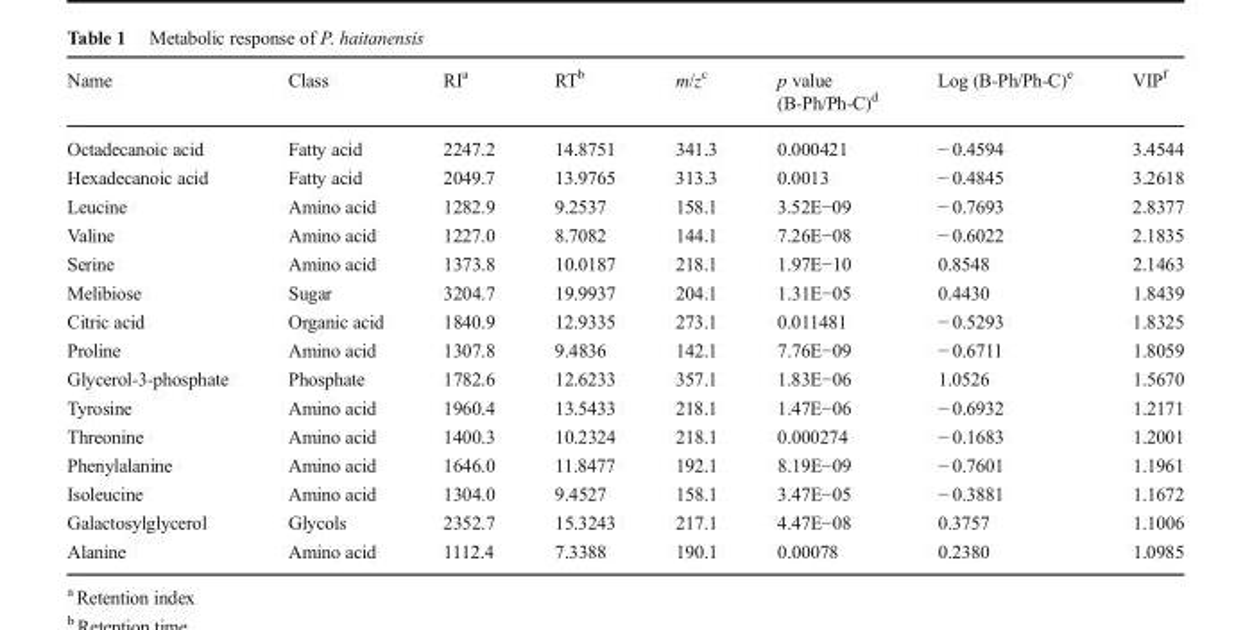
<table><thead><tr><td>Name</td><td>Class</td><td>RI<sup>a</sup></td><td>RT<sup>b</sup></td><td>m/z<sup>c</sup></td><td>p value (B-Ph/Ph-C)<sup>d</sup></td><td>Log (B-Ph/Ph-C)<sup>e</sup></td><td>VIP<sup>f</sup></td></tr></thead><tbody><tr><td>Octadecanoic acid</td><td>Fatty acid</td><td>2247.2</td><td>14.8751</td><td>341.3</td><td>0.000421</td><td>− 0.4594</td><td>3.4544</td></tr><tr><td>Hexadecanoic acid</td><td>Fatty acid</td><td>2049.7</td><td>13.9765</td><td>313.3</td><td>0.0013</td><td>− 0.4845</td><td>3.2618</td></tr><tr><td>Leucine</td><td>Amino acid</td><td>1282.9</td><td>9.2537</td><td>158.1</td><td>3.52E−09</td><td>− 0.7693</td><td>2.8377</td></tr><tr><td>Valine</td><td>Amino acid</td><td>1227.0</td><td>8.7082</td><td>144.1</td><td>7.26E−08</td><td>− 0.6022</td><td>2.1835</td></tr><tr><td>Serine</td><td>Amino acid</td><td>1373.8</td><td>10.0187</td><td>218.1</td><td>1.97E−10</td><td>0.8548</td><td>2.1463</td></tr><tr><td>Melibiose</td><td>Sugar</td><td>3204.7</td><td>19.9937</td><td>204.1</td><td>1.31E−05</td><td>0.4430</td><td>1.8439</td></tr><tr><td>Citric acid</td><td>Organic acid</td><td>1840.9</td><td>12.9335</td><td>273.1</td><td>0.011481</td><td>− 0.5293</td><td>1.8325</td></tr><tr><td>Proline</td><td>Amino acid</td><td>1307.8</td><td>9.4836</td><td>142.1</td><td>7.76E−09</td><td>− 0.6711</td><td>1.8059</td></tr><tr><td>Glycerol-3-phosphate</td><td>Phosphate</td><td>1782.6</td><td>12.6233</td><td>357.1</td><td>1.83E−06</td><td>1.0526</td><td>1.5670</td></tr><tr><td>Tyrosine</td><td>Amino acid</td><td>1960.4</td><td>13.5433</td><td>218.1</td><td>1.47E−06</td><td>− 0.6932</td><td>1.2171</td></tr><tr><td>Threonine</td><td>Amino acid</td><td>1400.3</td><td>10.2324</td><td>218.1</td><td>0.000274</td><td>− 0.1683</td><td>1.2001</td></tr><tr><td>Phenylalanine</td><td>Amino acid</td><td>1646.0</td><td>11.8477</td><td>192.1</td><td>8.19E−09</td><td>− 0.7601</td><td>1.1961</td></tr><tr><td>Isoleucine</td><td>Amino acid</td><td>1304.0</td><td>9.4527</td><td>158.1</td><td>3.47E−05</td><td>− 0.3881</td><td>1.1672</td></tr><tr><td>Galactosylglycerol</td><td>Glycols</td><td>2352.7</td><td>15.3243</td><td>217.1</td><td>4.47E−08</td><td>0.3757</td><td>1.1006</td></tr><tr><td>Alanine</td><td>Amino acid</td><td>1112.4</td><td>7.3388</td><td>190.1</td><td>0.00078</td><td>0.2380</td><td>1.0985</td></tr></tbody></table>